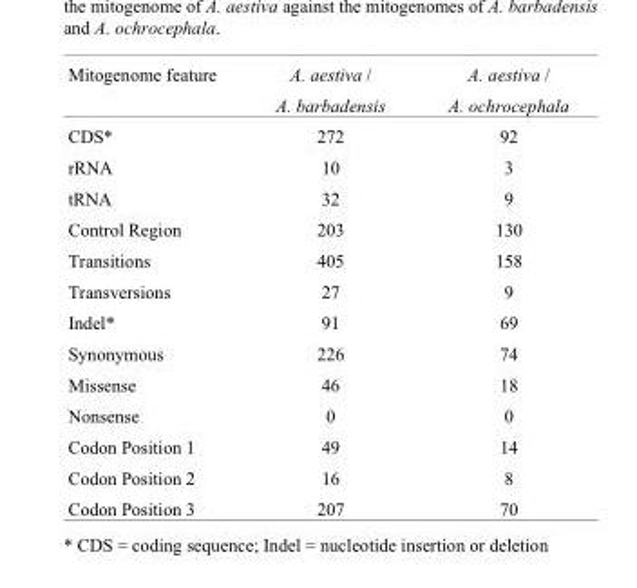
<table><thead><tr><td rowspan="2">Mitogenome feature</td><td rowspan="2">A. aestiva / A. barbadensis</td><td rowspan="2">A. aestiva / A. ochrocephala</td></tr><tr></tr></thead><tbody><tr><td>CDS*</td><td>272</td><td>92</td></tr><tr><td>rRNA</td><td>10</td><td>3</td></tr><tr><td>tRNA</td><td>32</td><td>9</td></tr><tr><td>Control Region</td><td>203</td><td>130</td></tr><tr><td>Transitions</td><td>405</td><td>158</td></tr><tr><td>Transversions</td><td>27</td><td>9</td></tr><tr><td>Indel*</td><td>91</td><td>69</td></tr><tr><td>Synonymous</td><td>226</td><td>74</td></tr><tr><td>Missense</td><td>46</td><td>18</td></tr><tr><td>Nonsense</td><td>0</td><td>0</td></tr><tr><td>Codon Position 1</td><td>49</td><td>14</td></tr><tr><td>Codon Position 2</td><td>16</td><td>8</td></tr><tr><td>Codon Position 3</td><td>207</td><td>70</td></tr></tbody></table>